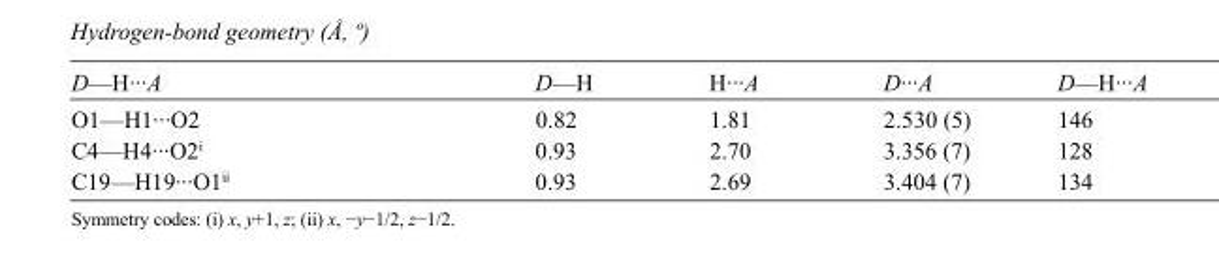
<table><tbody><tr><td>D—H···A</td><td>D—H</td><td>H···A</td><td>D···A</td><td>D—H···A</td></tr><tr><td>O1—H1···O2</td><td>0.82</td><td>1.81</td><td>2.530 (5)</td><td>146</td></tr><tr><td>C4—H4···O2<sup>i</sup></td><td>0.93</td><td>2.70</td><td>3.356 (7)</td><td>128</td></tr><tr><td>C19—H19···O1<sup>ii</sup></td><td>0.93</td><td>2.69</td><td>3.404 (7)</td><td>134</td></tr></tbody></table>